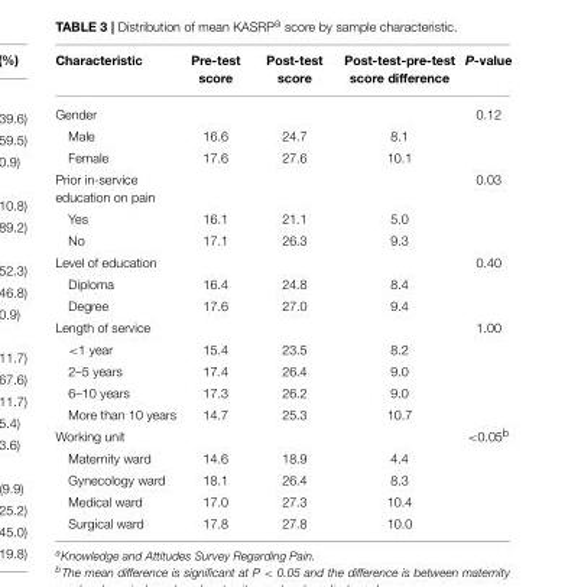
<table><thead><tr><td>Characteristic</td><td>Pre-test score</td><td>Post-test score</td><td>Post-test-pre-test score difference</td><td>P-value</td></tr></thead><tbody><tr><td>Gender</td><td></td><td></td><td></td><td>0.12</td></tr><tr><td>Male</td><td>16.6</td><td>24.7</td><td>8.1</td><td></td></tr><tr><td>Female</td><td>17.6</td><td>27.6</td><td>10.1</td><td></td></tr><tr><td>Prior in-service education on pain</td><td></td><td></td><td></td><td>0.03</td></tr><tr><td>Yes</td><td>16.1</td><td>21.1</td><td>5.0</td><td></td></tr><tr><td>No</td><td>17.1</td><td>26.3</td><td>9.3</td><td></td></tr><tr><td>Level of education</td><td></td><td></td><td></td><td>0.40</td></tr><tr><td>Diploma</td><td>16.4</td><td>24.8</td><td>8.4</td><td></td></tr><tr><td>Degree</td><td>17.6</td><td>27.0</td><td>9.4</td><td></td></tr><tr><td>Length of service</td><td></td><td></td><td></td><td>1.00</td></tr><tr><td>&lt;1 year</td><td>15.4</td><td>23.5</td><td>8.2</td><td></td></tr><tr><td>2–5 years</td><td>17.4</td><td>26.4</td><td>9.0</td><td></td></tr><tr><td>6–10 years</td><td>17.3</td><td>26.2</td><td>9.0</td><td></td></tr><tr><td>More than 10 years</td><td>14.7</td><td>25.3</td><td>10.7</td><td></td></tr><tr><td>Working unit</td><td></td><td></td><td></td><td>&lt;0.05<sup>b</sup></td></tr><tr><td>Maternity ward</td><td>14.6</td><td>18.9</td><td>4.4</td><td></td></tr><tr><td>Gynecology ward</td><td>18.1</td><td>26.4</td><td>8.3</td><td></td></tr><tr><td>Medical ward</td><td>17.0</td><td>27.3</td><td>10.4</td><td></td></tr><tr><td>Surgical ward</td><td>17.8</td><td>27.8</td><td>10.0</td><td></td></tr></tbody></table>